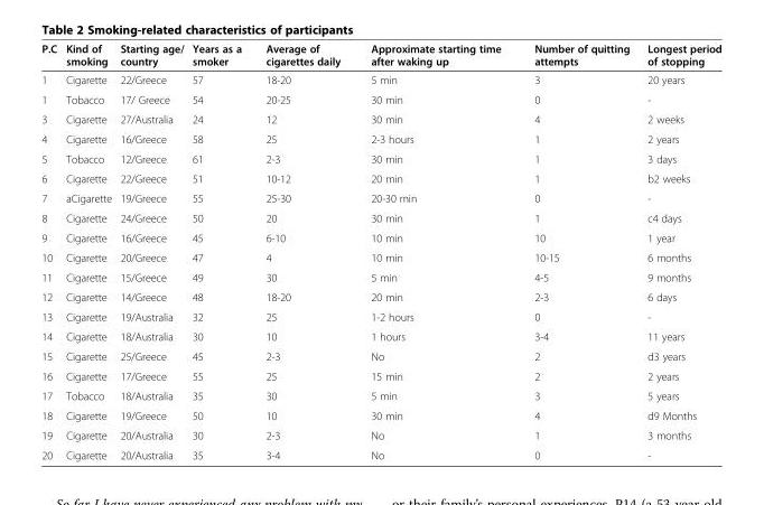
<table><thead><tr><td>P.C</td><td>Kind of smoking</td><td>Starting age/ country</td><td>Years as a smoker</td><td>Average of cigarettes daily</td><td>Approximate starting time after waking up</td><td>Number of quitting attempts</td><td>Longest period of stopping</td></tr></thead><tbody><tr><td>1</td><td>Cigarette</td><td>22/Greece</td><td>57</td><td>18-20</td><td>5 min</td><td>3</td><td>20 years</td></tr><tr><td>1</td><td>Tobacco</td><td>17/ Greece</td><td>54</td><td>20-25</td><td>30 min</td><td>0</td><td>-</td></tr><tr><td>3</td><td>Cigarette</td><td>27/Australia</td><td>24</td><td>12</td><td>30 min</td><td>4</td><td>2 weeks</td></tr><tr><td>4</td><td>Cigarette</td><td>16/Greece</td><td>58</td><td>25</td><td>2-3 hours</td><td>1</td><td>2 years</td></tr><tr><td>5</td><td>Tobacco</td><td>12/Greece</td><td>61</td><td>2-3</td><td>30 min</td><td>1</td><td>3 days</td></tr><tr><td>6</td><td>Cigarette</td><td>22/Greece</td><td>51</td><td>10-12</td><td>20 min</td><td>1</td><td>b2 weeks</td></tr><tr><td>7</td><td>aCigarette</td><td>19/Greece</td><td>55</td><td>25-30</td><td>20-30 min</td><td>0</td><td>-</td></tr><tr><td>8</td><td>Cigarette</td><td>24/Greece</td><td>50</td><td>20</td><td>30 min</td><td>1</td><td>c4 days</td></tr><tr><td>9</td><td>Cigarette</td><td>16/Greece</td><td>45</td><td>6-10</td><td>10 min</td><td>10</td><td>1 year</td></tr><tr><td>10</td><td>Cigarette</td><td>20/Greece</td><td>47</td><td>4</td><td>10 min</td><td>10-15</td><td>6 months</td></tr><tr><td>11</td><td>Cigarette</td><td>15/Greece</td><td>49</td><td>30</td><td>5 min</td><td>4-5</td><td>9 months</td></tr><tr><td>12</td><td>Cigarette</td><td>14/Greece</td><td>48</td><td>18-20</td><td>20 min</td><td>2-3</td><td>6 days</td></tr><tr><td>13</td><td>Cigarette</td><td>19/Australia</td><td>32</td><td>25</td><td>1-2 hours</td><td>0</td><td>-</td></tr><tr><td>14</td><td>Cigarette</td><td>18/Australia</td><td>30</td><td>10</td><td>1 hours</td><td>3-4</td><td>11 years</td></tr><tr><td>15</td><td>Cigarette</td><td>25/Greece</td><td>45</td><td>2-3</td><td>No</td><td>2</td><td>d3 years</td></tr><tr><td>16</td><td>Cigarette</td><td>17/Greece</td><td>55</td><td>25</td><td>15 min</td><td>2</td><td>2 years</td></tr><tr><td>17</td><td>Tobacco</td><td>18/Australia</td><td>35</td><td>30</td><td>5 min</td><td>3</td><td>5 years</td></tr><tr><td>18</td><td>Cigarette</td><td>19/Greece</td><td>50</td><td>10</td><td>30 min</td><td>4</td><td>d9 Months</td></tr><tr><td>19</td><td>Cigarette</td><td>20/Australia</td><td>30</td><td>2-3</td><td>No</td><td>1</td><td>3 months</td></tr><tr><td>20</td><td>Cigarette</td><td>20/Australia</td><td>35</td><td>3-4</td><td>No</td><td>0</td><td>-</td></tr></tbody></table>